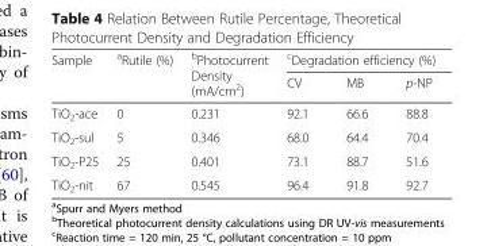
<table><thead><tr><td rowspan="2">Sample</td><td rowspan="2"><sup>a</sup>Rutile (%)</td><td rowspan="2"><sup>b</sup>Photocurrent Density (mA/cm<sup>2</sup>)</td><td colspan="3"><sup>c</sup>Degradation efficiency (%)</td></tr><tr><td>CV</td><td>MB</td><td>p-NP</td></tr></thead><tbody><tr><td>TiO<sub>2</sub>-ace</td><td>0</td><td>0.231</td><td>92.1</td><td>66.6</td><td>88.8</td></tr><tr><td>TiO<sub>2</sub>-sul</td><td>5</td><td>0.346</td><td>68.0</td><td>64.4</td><td>70.4</td></tr><tr><td>TiO<sub>2</sub>-P25</td><td>25</td><td>0.401</td><td>73.1</td><td>88.7</td><td>51.6</td></tr><tr><td>TiO<sub>2</sub>-nit</td><td>67</td><td>0.545</td><td>96.4</td><td>91.8</td><td>92.7</td></tr></tbody></table>